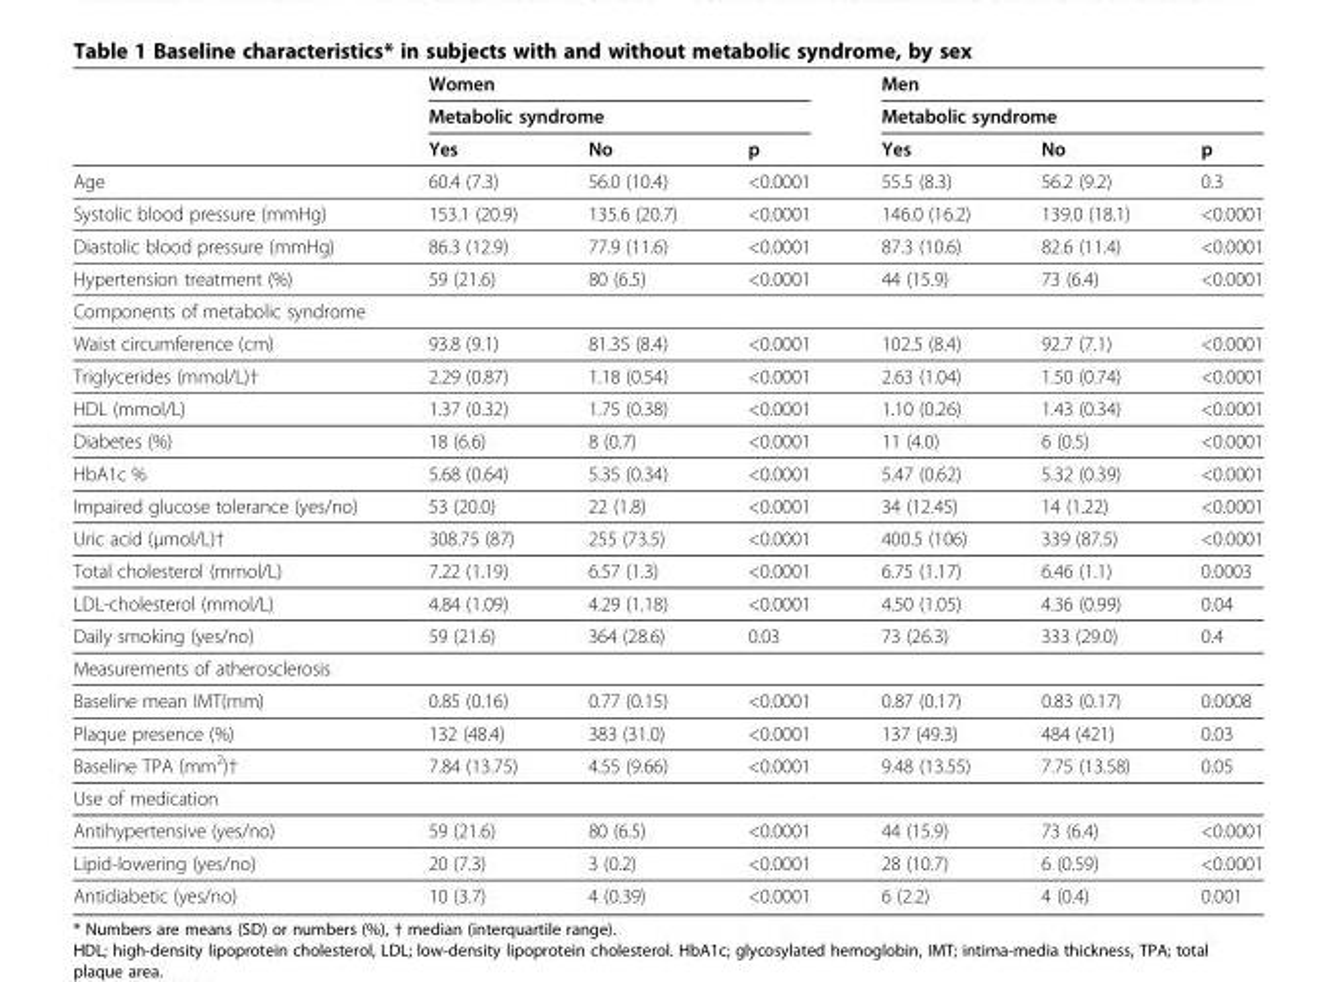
<table><thead><tr><td rowspan="3"></td><td rowspan="2" colspan="3">Women Metabolic syndrome</td><td rowspan="2" colspan="3">Men Metabolic syndrome</td></tr><tr></tr><tr><td>Yes</td><td>No</td><td>p</td><td>Yes</td><td>No</td><td>p</td></tr></thead><tbody><tr><td>Age</td><td>60.4 (7.3)</td><td>56.0 (10.4)</td><td>&lt;0.0001</td><td>55.5 (8.3)</td><td>56.2 (9.2)</td><td>0.3</td></tr><tr><td>Systolic blood pressure (mmHg)</td><td>153.1 (20.9)</td><td>135.6 (20.7)</td><td>&lt;0.0001</td><td>146.0 (16.2)</td><td>139.0 (18.1)</td><td>&lt;0.0001</td></tr><tr><td>Diastolic blood pressure (mmHg)</td><td>86.3 (12.9)</td><td>77.9 (11.6)</td><td>&lt;0.0001</td><td>87.3 (10.6)</td><td>82.6 (11.4)</td><td>&lt;0.0001</td></tr><tr><td>Hypertension treatment (%)</td><td>59 (21.6)</td><td>80 (6.5)</td><td>&lt;0.0001</td><td>44 (15.9)</td><td>73 (6.4)</td><td>&lt;0.0001</td></tr><tr><td colspan="7">Components of metabolic syndrome</td></tr><tr><td>Waist circumference (cm)</td><td>93.8 (9.1)</td><td>81.35 (8.4)</td><td>&lt;0.0001</td><td>102.5 (8.4)</td><td>92.7 (7.1)</td><td>&lt;0.0001</td></tr><tr><td>Triglycerides (mmol/L)†</td><td>2.29 (0.87)</td><td>1.18 (0.54)</td><td>&lt;0.0001</td><td>2.63 (1.04)</td><td>1.50 (0.74)</td><td>&lt;0.0001</td></tr><tr><td>HDL (mmol/L)</td><td>1.37 (0.32)</td><td>1.75 (0.38)</td><td>&lt;0.0001</td><td>1.10 (0.26)</td><td>1.43 (0.34)</td><td>&lt;0.0001</td></tr><tr><td>Diabetes (%)</td><td>18 (6.6)</td><td>8 (0.7)</td><td>&lt;0.0001</td><td>11 (4.0)</td><td>6 (0.5)</td><td>&lt;0.0001</td></tr><tr><td>HbA1c %</td><td>5.68 (0.64)</td><td>5.35 (0.34)</td><td>&lt;0.0001</td><td>5.47 (0.62)</td><td>5.32 (0.39)</td><td>&lt;0.0001</td></tr><tr><td>Impaired glucose tolerance (yes/no)</td><td>53 (20.0)</td><td>22 (1.8)</td><td>&lt;0.0001</td><td>34 (12.45)</td><td>14 (1.22)</td><td>&lt;0.0001</td></tr><tr><td>Uric acid (μmol/L)†</td><td>308.75 (87)</td><td>255 (73.5)</td><td>&lt;0.0001</td><td>400.5 (106)</td><td>339 (87.5)</td><td>&lt;0.0001</td></tr><tr><td>Total cholesterol (mmol/L)</td><td>7.22 (1.19)</td><td>6.57 (1.3)</td><td>&lt;0.0001</td><td>6.75 (1.17)</td><td>6.46 (1.1)</td><td>0.0003</td></tr><tr><td>LDL-cholesterol (mmol/L)</td><td>4.84 (1.09)</td><td>4.29 (1.18)</td><td>&lt;0.0001</td><td>4.50 (1.05)</td><td>4.36 (0.99)</td><td>0.04</td></tr><tr><td>Daily smoking (yes/no)</td><td>59 (21.6)</td><td>364 (28.6)</td><td>0.03</td><td>73 (26.3)</td><td>333 (29.0)</td><td>0.4</td></tr><tr><td colspan="7">Measurements of atherosclerosis</td></tr><tr><td>Baseline mean IMT(mm)</td><td>0.85 (0.16)</td><td>0.77 (0.15)</td><td>&lt;0.0001</td><td>0.87 (0.17)</td><td>0.83 (0.17)</td><td>0.0008</td></tr><tr><td>Plaque presence (%)</td><td>132 (48.4)</td><td>383 (31.0)</td><td>&lt;0.0001</td><td>137 (49.3)</td><td>484 (421)</td><td>0.03</td></tr><tr><td>Baseline TPA (mm<sup>2</sup>)†</td><td>7.84 (13.75)</td><td>4.55 (9.66)</td><td>&lt;0.0001</td><td>9.48 (13.55)</td><td>7.75 (13.58)</td><td>0.05</td></tr><tr><td colspan="7">Use of medication</td></tr><tr><td>Antihypertensive (yes/no)</td><td>59 (21.6)</td><td>80 (6.5)</td><td>&lt;0.0001</td><td>44 (15.9)</td><td>73 (6.4)</td><td>&lt;0.0001</td></tr><tr><td>Lipid-lowering (yes/no)</td><td>20 (7.3)</td><td>3 (0.2)</td><td>&lt;0.0001</td><td>28 (10.7)</td><td>6 (0.59)</td><td>&lt;0.0001</td></tr><tr><td>Antidiabetic (yes/no)</td><td>10 (3.7)</td><td>4 (0.39)</td><td>&lt;0.0001</td><td>6 (2.2)</td><td>4 (0.4)</td><td>0.001</td></tr></tbody></table>